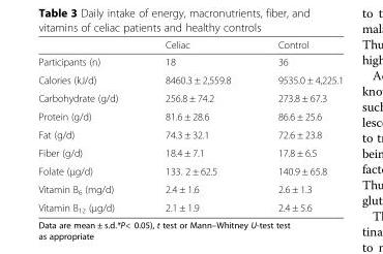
<table><thead><tr><td></td><td>Celiac</td><td>Control</td></tr></thead><tbody><tr><td>Participants (n)</td><td>18</td><td>36</td></tr><tr><td>Calories (kJ/d)</td><td>8460.3 ± 2,559.8</td><td>9535.0 ± 4,225.1</td></tr><tr><td>Carbohydrate (g/d)</td><td>256.8 ± 74.2</td><td>273.8 ± 67.3</td></tr><tr><td>Protein (g/d)</td><td>81.6 ± 28.6</td><td>86.6 ± 25.6</td></tr><tr><td>Fat (g/d)</td><td>74.3 ± 32.1</td><td>72.6 ± 23.8</td></tr><tr><td>Fiber (g/d)</td><td>18.4 ± 7.1</td><td>17.8 ± 6.5</td></tr><tr><td>Folate (μg/d)</td><td>133. 2 ± 62.5</td><td>140.9 ± 65.8</td></tr><tr><td>Vitamin B<sub>6</sub> (mg/d)</td><td>2.4 ± 1.6</td><td>2.6 ± 1.3</td></tr><tr><td>Vitamin B<sub>12</sub> (μg/d)</td><td>2.1 ± 1.9</td><td>2.4 ± 5.6</td></tr></tbody></table>